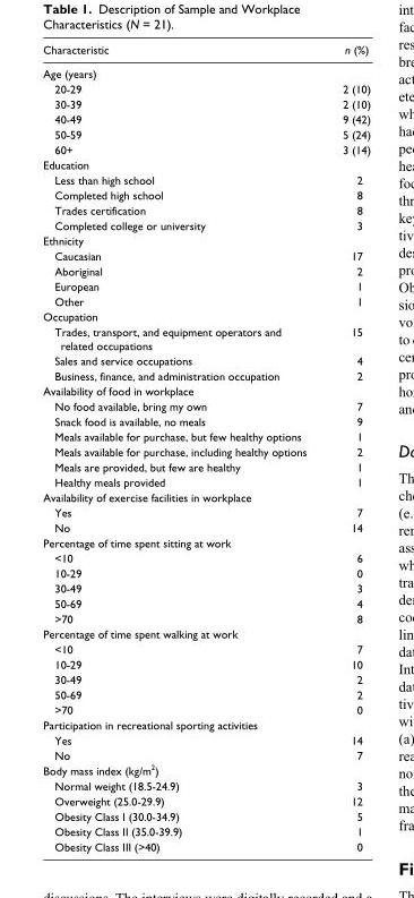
<table><thead><tr><td>Characteristic</td><td>n (%)</td></tr></thead><tbody><tr><td colspan="2">Age (years)</td></tr><tr><td>20-29</td><td>2 (10)</td></tr><tr><td>30-39</td><td>2 (10)</td></tr><tr><td>40-49</td><td>9 (42)</td></tr><tr><td>50-59</td><td>5 (24)</td></tr><tr><td>60+</td><td>3 (14)</td></tr><tr><td colspan="2">Education</td></tr><tr><td>Less than high school</td><td>2</td></tr><tr><td>Completed high school</td><td>8</td></tr><tr><td>Trades certification</td><td>8</td></tr><tr><td>Completed college or university</td><td>3</td></tr><tr><td colspan="2">Ethnicity</td></tr><tr><td>Caucasian</td><td>17</td></tr><tr><td>Aboriginal</td><td>2</td></tr><tr><td>European</td><td>1</td></tr><tr><td>Other</td><td>1</td></tr><tr><td colspan="2">Occupation</td></tr><tr><td>Trades, transport, and equipment operators and related occupations</td><td>15</td></tr><tr><td>Sales and service occupations</td><td>4</td></tr><tr><td>Business, finance, and administration occupation</td><td>2</td></tr><tr><td colspan="2">Availability of food in workplace</td></tr><tr><td>No food available, bring my own</td><td>7</td></tr><tr><td>Snack food is available, no meals</td><td>9</td></tr><tr><td>Meals available for purchase, but few healthy options</td><td>1</td></tr><tr><td>Meals available for purchase, including healthy options</td><td>2</td></tr><tr><td>Meals are provided, but few are healthy</td><td>1</td></tr><tr><td>Healthy meals provided</td><td>1</td></tr><tr><td colspan="2">Availability of exercise facilities in workplace</td></tr><tr><td>Yes</td><td>7</td></tr><tr><td>No</td><td>14</td></tr><tr><td colspan="2">Percentage of time spent sitting at work</td></tr><tr><td>&lt;10</td><td>6</td></tr><tr><td>10-29</td><td>0</td></tr><tr><td>30-49</td><td>3</td></tr><tr><td>50-69</td><td>4</td></tr><tr><td>&gt;70</td><td>8</td></tr><tr><td colspan="2">Percentage of time spent walking at work</td></tr><tr><td>&lt;10</td><td>7</td></tr><tr><td>10-29</td><td>10</td></tr><tr><td>30-49</td><td>2</td></tr><tr><td>50-69</td><td>2</td></tr><tr><td>&gt;70</td><td>0</td></tr><tr><td colspan="2">Participation in recreational sporting activities</td></tr><tr><td>Yes</td><td>14</td></tr><tr><td>No</td><td>7</td></tr><tr><td colspan="2">Body mass index (kg/m<sup>2</sup>)</td></tr><tr><td>Normal weight (18.5-24.9)</td><td>3</td></tr><tr><td>Overweight (25.0-29.9)</td><td>12</td></tr><tr><td>Obesity Class I (30.0-34.9)</td><td>5</td></tr><tr><td>Obesity Class II (35.0-39.9)</td><td>1</td></tr><tr><td>Obesity Class III (&gt;40)</td><td>0</td></tr></tbody></table>